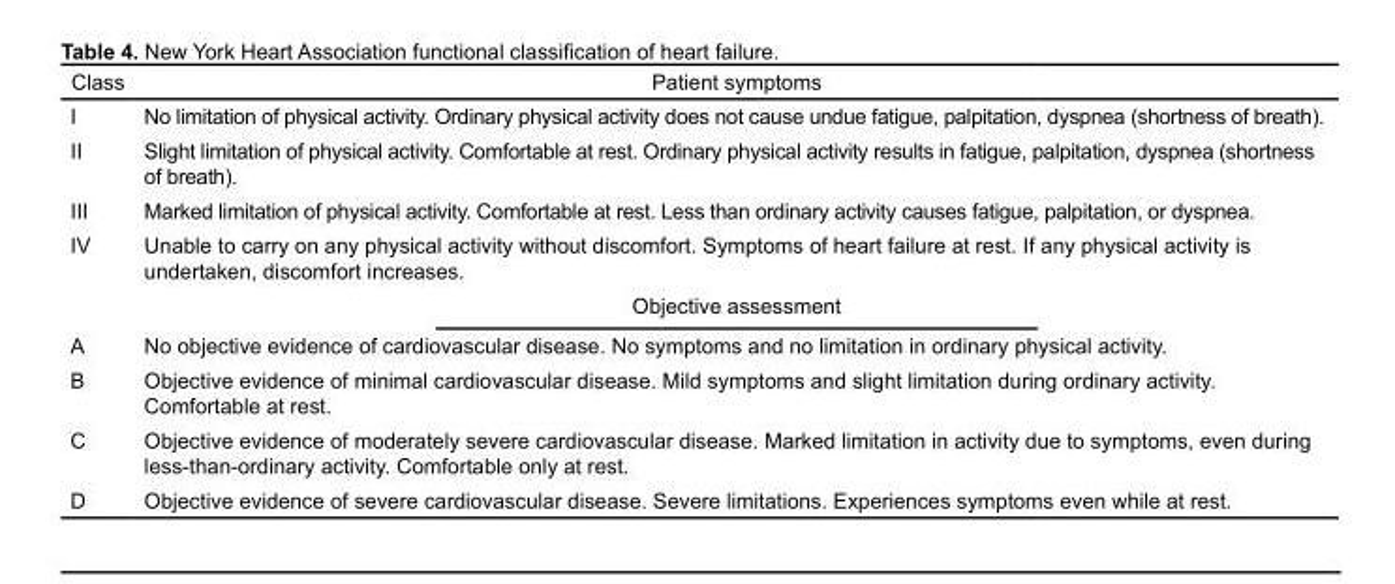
<table><thead><tr><td>Class</td><td>Patient symptoms</td></tr></thead><tbody><tr><td>I</td><td>No limitation of physical activity. Ordinary physical activity does not cause undue fatigue, palpitation, dyspnea (shortness of breath).</td></tr><tr><td>II</td><td>Slight limitation of physical activity. Comfortable at rest. Ordinary physical activity results in fatigue, palpitation, dyspnea (shortness of breath).</td></tr><tr><td>III</td><td>Marked limitation of physical activity. Comfortable at rest. Less than ordinary activity causes fatigue, palpitation, or dyspnea.</td></tr><tr><td rowspan="2">IV</td><td>Unable to carry on any physical activity without discomfort. Symptoms of heart failure at rest. If any physical activity is undertaken, discomfort increases.</td></tr><tr><td>Objective assessment</td></tr><tr><td>A</td><td>No objective evidence of cardiovascular disease. No symptoms and no limitation in ordinary physical activity.</td></tr><tr><td>B</td><td>Objective evidence of minimal cardiovascular disease. Mild symptoms and slight limitation during ordinary activity. Comfortable at rest.</td></tr><tr><td>C</td><td>Objective evidence of moderately severe cardiovascular disease. Marked limitation in activity due to symptoms, even during less-than-ordinary activity. Comfortable only at rest.</td></tr><tr><td>D</td><td>Objective evidence of severe cardiovascular disease. Severe limitations. Experiences symptoms even while at rest.</td></tr></tbody></table>